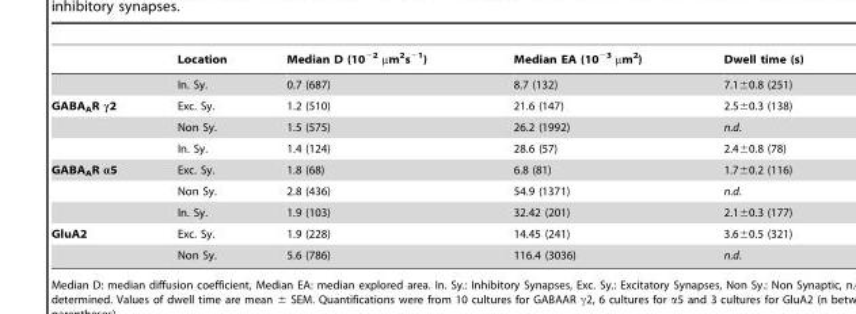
<table><thead><tr><td></td><td>Location</td><td>Median D (10<sup>−2</sup> µm<sup>2</sup>s<sup>−1</sup>)</td><td>Median EA (10<sup>−3</sup> µm<sup>2</sup>)</td><td>Dwell time (s)</td></tr></thead><tbody><tr><td></td><td>In. Sy.</td><td>0.7 (687)</td><td>8.7 (132)</td><td>7.1±0.8 (251)</td></tr><tr><td rowspan="3">GABA<sub>A</sub>R γ2</td><td>Exc. Sy.</td><td>1.2 (510)</td><td>21.6 (147)</td><td>2.5±0.3 (138)</td></tr><tr><td>Non Sy.</td><td>1.5 (575)</td><td>26.2 (1992)</td><td>n.d.</td></tr><tr><td>In. Sy.</td><td>1.4 (124)</td><td>28.6 (57)</td><td>2.4±0.8 (78)</td></tr><tr><td rowspan="3">GABA<sub>A</sub>R α5</td><td>Exc. Sy.</td><td>1.8 (68)</td><td>6.8 (81)</td><td>1.7±0.2 (116)</td></tr><tr><td>Non Sy.</td><td>2.8 (436)</td><td>54.9 (1371)</td><td>n.d.</td></tr><tr><td>In. Sy.</td><td>1.9 (103)</td><td>32.42 (201)</td><td>2.1±0.3 (177)</td></tr><tr><td rowspan="2">GluA2</td><td>Exc. Sy.</td><td>1.9 (228)</td><td>14.45 (241)</td><td>3.6±0.5 (321)</td></tr><tr><td>Non Sy.</td><td>5.6 (786)</td><td>116.4 (3036)</td><td>n.d.</td></tr></tbody></table>